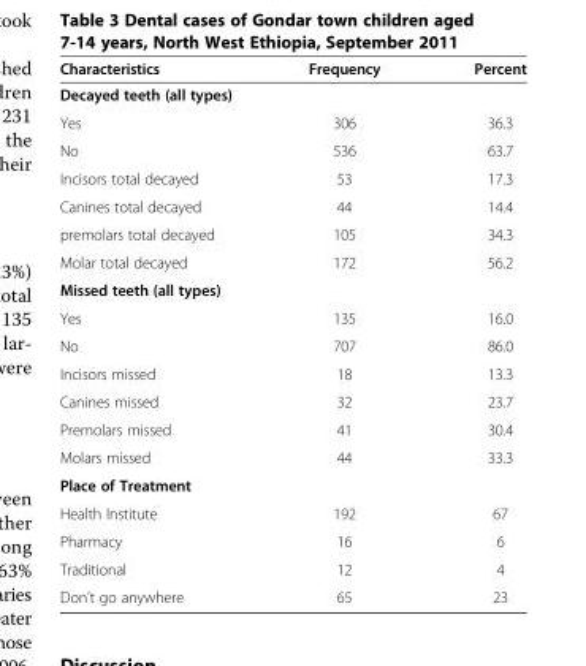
<table><thead><tr><td>Characteristics</td><td>Frequency</td><td>Percent</td></tr></thead><tbody><tr><td colspan="3">Decayed teeth (all types)</td></tr><tr><td>Yes</td><td>306</td><td>36.3</td></tr><tr><td>No</td><td>536</td><td>63.7</td></tr><tr><td>Incisors total decayed</td><td>53</td><td>17.3</td></tr><tr><td>Canines total decayed</td><td>44</td><td>14.4</td></tr><tr><td>premolars total decayed</td><td>105</td><td>34.3</td></tr><tr><td>Molar total decayed</td><td>172</td><td>56.2</td></tr><tr><td colspan="3">Missed teeth (all types)</td></tr><tr><td>Yes</td><td>135</td><td>16.0</td></tr><tr><td>No</td><td>707</td><td>86.0</td></tr><tr><td>Incisors missed</td><td>18</td><td>13.3</td></tr><tr><td>Canines missed</td><td>32</td><td>23.7</td></tr><tr><td>Premolars missed</td><td>41</td><td>30.4</td></tr><tr><td>Molars missed</td><td>44</td><td>33.3</td></tr><tr><td colspan="3">Place of Treatment</td></tr><tr><td>Health Institute</td><td>192</td><td>67</td></tr><tr><td>Pharmacy</td><td>16</td><td>6</td></tr><tr><td>Traditional</td><td>12</td><td>4</td></tr><tr><td>Don’t go anywhere</td><td>65</td><td>23</td></tr></tbody></table>